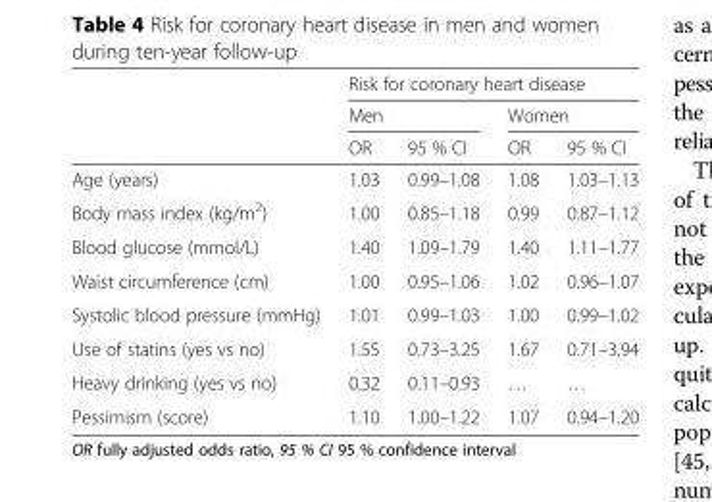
<table><thead><tr><td rowspan="3"></td><td colspan="4">Risk for coronary heart disease</td></tr><tr><td colspan="2">Men</td><td colspan="2">Women</td></tr><tr><td>OR</td><td>95 % CI</td><td>OR</td><td>95 % CI</td></tr></thead><tbody><tr><td>Age (years)</td><td>1.03</td><td>0.99–1.08</td><td>1.08</td><td>1.03–1.13</td></tr><tr><td>Body mass index (kg/m<sup>2</sup>)</td><td>1.00</td><td>0.85–1.18</td><td>0.99</td><td>0.87–1.12</td></tr><tr><td>Blood glucose (mmol/L)</td><td>1.40</td><td>1.09–1.79</td><td>1.40</td><td>1.11–1.77</td></tr><tr><td>Waist circumference (cm)</td><td>1.00</td><td>0.95–1.06</td><td>1.02</td><td>0.96–1.07</td></tr><tr><td>Systolic blood pressure (mmHg)</td><td>1.01</td><td>0.99–1.03</td><td>1.00</td><td>0.99–1.02</td></tr><tr><td>Use of statins (yes vs no)</td><td>1.55</td><td>0.73–3.25</td><td>1.67</td><td>0.71–3.94</td></tr><tr><td>Heavy drinking (yes vs no)</td><td>0.32</td><td>0.11–0.93</td><td>…</td><td>…</td></tr><tr><td>Pessimism (score)</td><td>1.10</td><td>1.00–1.22</td><td>1.07</td><td>0.94–1.20</td></tr></tbody></table>